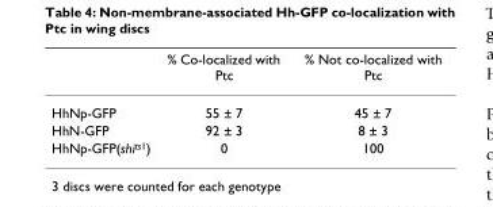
<table><thead><tr><td></td><td>% Co-localized with Ptc</td><td>% Not co-localized with Ptc</td></tr></thead><tbody><tr><td>HhNp-GFP</td><td>55 ± 7</td><td>45 ± 7</td></tr><tr><td>HhN-GFP</td><td>92 ± 3</td><td>8 ± 3</td></tr><tr><td>HhNp-GFP(shi<sup>ts1</sup>)</td><td>0</td><td>100</td></tr></tbody></table>